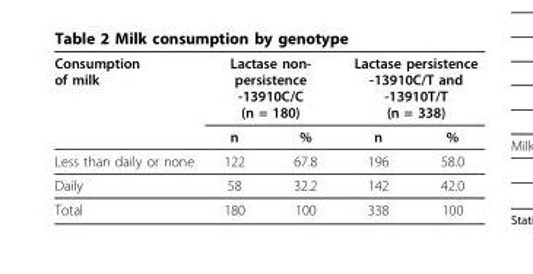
<table><thead><tr><td rowspan="2">Consumption of milk</td><td colspan="2">Lactase non- persistence -13910C/C (n = 180)</td><td colspan="2">Lactase persistence -13910C/T and -13910T/T (n = 338)</td></tr><tr><td>n</td><td>%</td><td>n</td><td>%</td></tr></thead><tbody><tr><td>Less than daily or none</td><td>122</td><td>67.8</td><td>196</td><td>58.0</td></tr><tr><td>Daily</td><td>58</td><td>32.2</td><td>142</td><td>42.0</td></tr><tr><td>Total</td><td>180</td><td>100</td><td>338</td><td>100</td></tr></tbody></table>